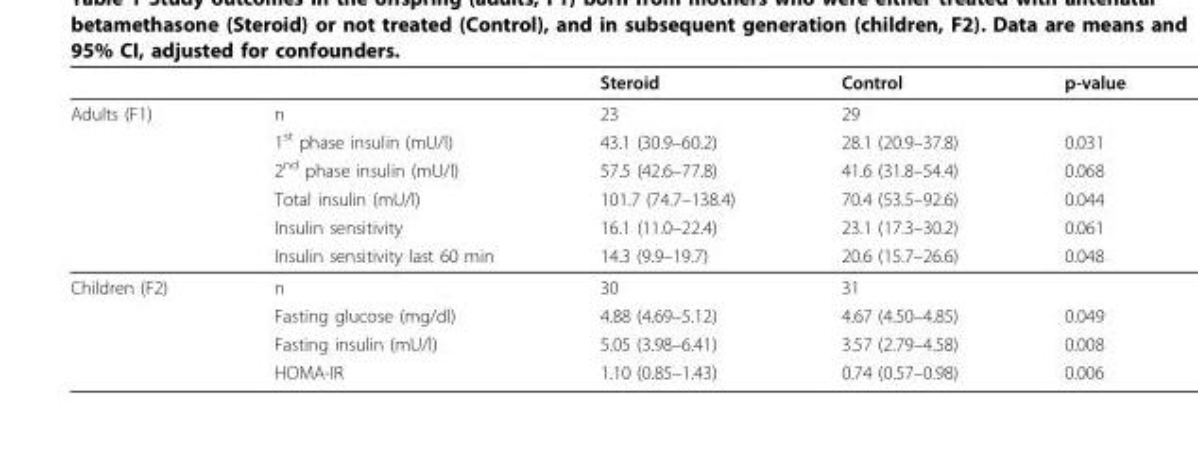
<table><thead><tr><td></td><td></td><td>Steroid</td><td>Control</td><td>p-value</td></tr></thead><tbody><tr><td rowspan="6">Adults (F1)</td><td>n</td><td>23</td><td>29</td><td></td></tr><tr><td>1<sup>st</sup> phase insulin (mU/l)</td><td>43.1 (30.9–60.2)</td><td>28.1 (20.9–37.8)</td><td>0.031</td></tr><tr><td>2<sup>nd</sup> phase insulin (mU/l)</td><td>57.5 (42.6–77.8)</td><td>41.6 (31.8–54.4)</td><td>0.068</td></tr><tr><td>Total insulin (mU/l)</td><td>101.7 (74.7–138.4)</td><td>70.4 (53.5–92.6)</td><td>0.044</td></tr><tr><td>Insulin sensitivity</td><td>16.1 (11.0–22.4)</td><td>23.1 (17.3–30.2)</td><td>0.061</td></tr><tr><td>Insulin sensitivity last 60 min</td><td>14.3 (9.9–19.7)</td><td>20.6 (15.7–26.6)</td><td>0.048</td></tr><tr><td rowspan="4">Children (F2)</td><td>n</td><td>30</td><td>31</td><td></td></tr><tr><td>Fasting glucose (mg/dl)</td><td>4.88 (4.69–5.12)</td><td>4.67 (4.50–4.85)</td><td>0.049</td></tr><tr><td>Fasting insulin (mU/l)</td><td>5.05 (3.98–6.41)</td><td>3.57 (2.79–4.58)</td><td>0.008</td></tr><tr><td>HOMA-IR</td><td>1.10 (0.85–1.43)</td><td>0.74 (0.57–0.98)</td><td>0.006</td></tr></tbody></table>